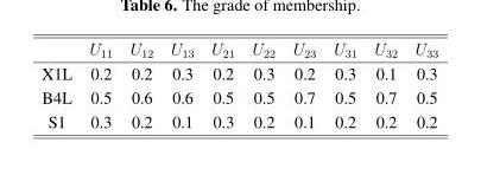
<table><thead><tr><td></td><td>U<sub>11</sub></td><td>U<sub>12</sub></td><td>U<sub>13</sub></td><td>U<sub>21</sub></td><td>U<sub>22</sub></td><td>U<sub>23</sub></td><td>U<sub>31</sub></td><td>U<sub>32</sub></td><td>U<sub>33</sub></td></tr></thead><tbody><tr><td>X1L</td><td>0.2</td><td>0.2</td><td>0.3</td><td>0.2</td><td>0.3</td><td>0.2</td><td>0.3</td><td>0.1</td><td>0.3</td></tr><tr><td>B4L</td><td>0.5</td><td>0.6</td><td>0.6</td><td>0.5</td><td>0.5</td><td>0.7</td><td>0.5</td><td>0.7</td><td>0.5</td></tr><tr><td>S1</td><td>0.3</td><td>0.2</td><td>0.1</td><td>0.3</td><td>0.2</td><td>0.1</td><td>0.2</td><td>0.2</td><td>0.2</td></tr></tbody></table>